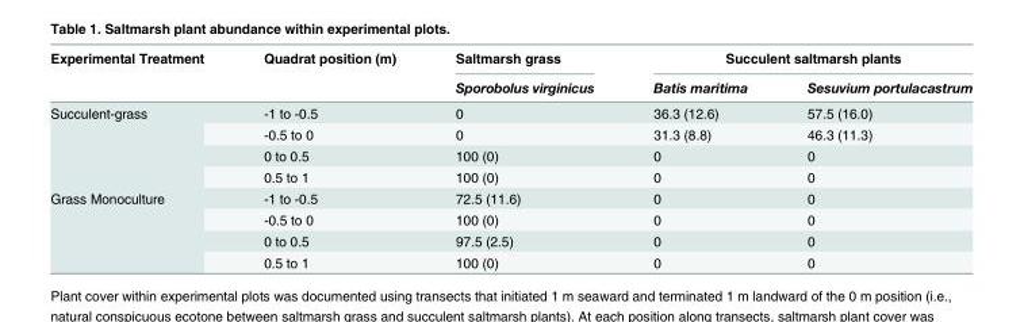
<table><thead><tr><td rowspan="2">Experimental Treatment</td><td rowspan="2">Quadrat position (m)</td><td rowspan="2">Saltmarsh grass Sporobolus virginicus</td><td colspan="2">Succulent saltmarsh plants</td></tr><tr><td>Batis maritima</td><td>Sesuvium portulacastrum</td></tr></thead><tbody><tr><td rowspan="4">Succulent-grass</td><td>-1 to -0.5</td><td>0</td><td>36.3 (12.6)</td><td>57.5 (16.0)</td></tr><tr><td>-0.5 to 0</td><td>0</td><td>31.3 (8.8)</td><td>46.3 (11.3)</td></tr><tr><td>0 to 0.5</td><td>100 (0)</td><td>0</td><td>0</td></tr><tr><td>0.5 to 1</td><td>100 (0)</td><td>0</td><td>0</td></tr><tr><td rowspan="4">Grass Monoculture</td><td>-1 to -0.5</td><td>72.5 (11.6)</td><td>0</td><td>0</td></tr><tr><td>-0.5 to 0</td><td>100 (0)</td><td>0</td><td>0</td></tr><tr><td>0 to 0.5</td><td>97.5 (2.5)</td><td>0</td><td>0</td></tr><tr><td>0.5 to 1</td><td>100 (0)</td><td>0</td><td>0</td></tr></tbody></table>